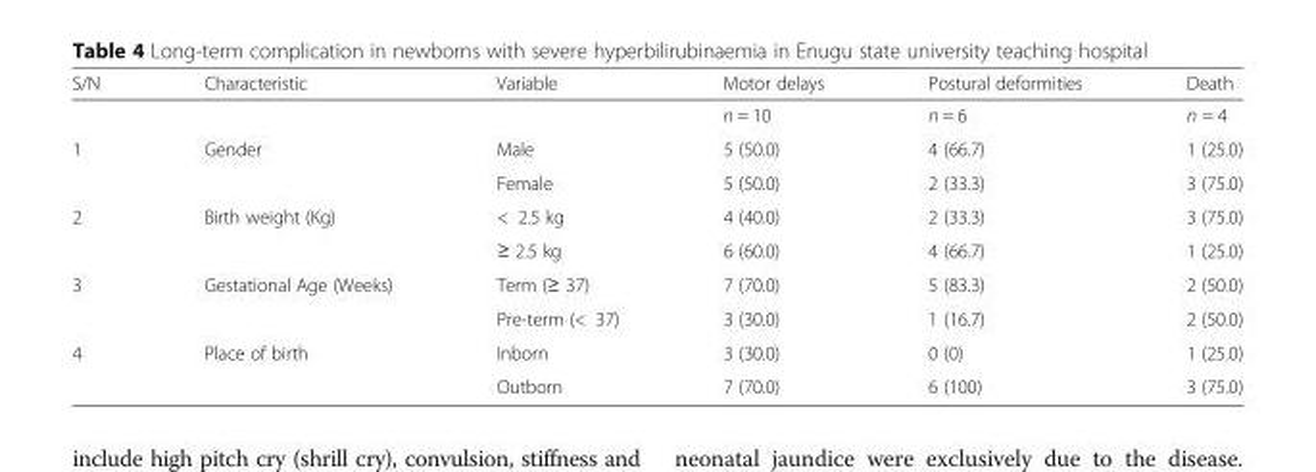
<table><thead><tr><td>S/N</td><td>Characteristic</td><td>Variable</td><td>Motor delays</td><td>Postural deformities</td><td>Death</td></tr></thead><tbody><tr><td></td><td></td><td></td><td>n = 10</td><td>n = 6</td><td>n = 4</td></tr><tr><td rowspan="2">1</td><td rowspan="2">Gender</td><td>Male</td><td>5 (50.0)</td><td>4 (66.7)</td><td>1 (25.0)</td></tr><tr><td>Female</td><td>5 (50.0)</td><td>2 (33.3)</td><td>3 (75.0)</td></tr><tr><td rowspan="2">2</td><td rowspan="2">Birth weight (Kg)</td><td>&lt; 2.5 kg</td><td>4 (40.0)</td><td>2 (33.3)</td><td>3 (75.0)</td></tr><tr><td>≥ 2.5 kg</td><td>6 (60.0)</td><td>4 (66.7)</td><td>1 (25.0)</td></tr><tr><td rowspan="2">3</td><td rowspan="2">Gestational Age (Weeks)</td><td>Term (≥ 37)</td><td>7 (70.0)</td><td>5 (83.3)</td><td>2 (50.0)</td></tr><tr><td>Pre-term (&lt; 37)</td><td>3 (30.0)</td><td>1 (16.7)</td><td>2 (50.0)</td></tr><tr><td rowspan="2">4</td><td rowspan="2">Place of birth</td><td>Inborn</td><td>3 (30.0)</td><td>0 (0)</td><td>1 (25.0)</td></tr><tr><td>Outborn</td><td>7 (70.0)</td><td>6 (100)</td><td>3 (75.0)</td></tr></tbody></table>